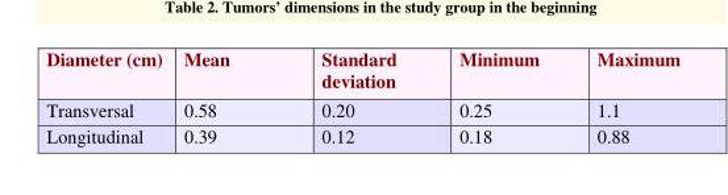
<table><thead><tr><td>Diameter (cm)</td><td>Mean</td><td>Standard deviation</td><td>Minimum</td><td>Maximum</td></tr></thead><tbody><tr><td>Transversal</td><td>0.58</td><td>0.20</td><td>0.25</td><td>1.1</td></tr><tr><td>Longitudinal</td><td>0.39</td><td>0.12</td><td>0.18</td><td>0.88</td></tr></tbody></table>